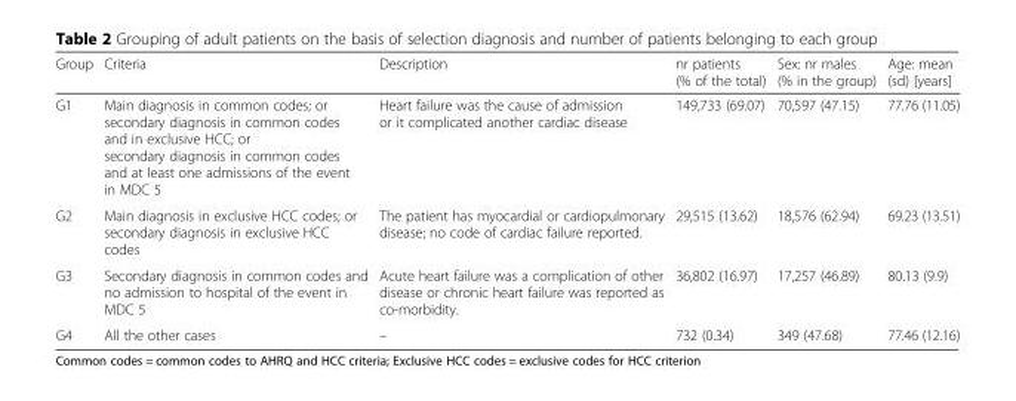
<table><thead><tr><td>Group</td><td>Criteria</td><td>Description</td><td>nr patients (% of the total)</td><td>Sex: nr males (% in the group)</td><td>Age: mean (sd) [years]</td></tr></thead><tbody><tr><td>G1</td><td>Main diagnosis in common codes; or secondary diagnosis in common codes and in exclusive HCC; or secondary diagnosis in common codes and at least one admissions of the event in MDC 5</td><td>Heart failure was the cause of admission or it complicated another cardiac disease</td><td>149,733 (69.07)</td><td>70,597 (47.15)</td><td>77.76 (11.05)</td></tr><tr><td>G2</td><td>Main diagnosis in exclusive HCC codes; or secondary diagnosis in exclusive HCC codes</td><td>The patient has myocardial or cardiopulmonary disease; no code of cardiac failure reported.</td><td>29,515 (13.62)</td><td>18,576 (62.94)</td><td>69.23 (13.51)</td></tr><tr><td>G3</td><td>Secondary diagnosis in common codes and no admission to hospital of the event in MDC 5</td><td>Acute heart failure was a complication of other disease or chronic heart failure was reported as co-morbidity.</td><td>36,802 (16.97)</td><td>17,257 (46.89)</td><td>80.13 (9.9)</td></tr><tr><td>G4</td><td>All the other cases</td><td>–</td><td>732 (0.34)</td><td>349 (47.68)</td><td>77.46 (12.16)</td></tr></tbody></table>